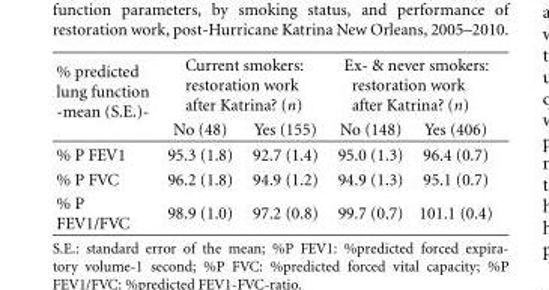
<table><thead><tr><td rowspan="2">% predicted lung function -mean (S.E.)-</td><td colspan="2">Current smokers: restoration work after Katrina? (n)</td><td colspan="2">Ex- &amp; never smokers: restoration work after Katrina? (n)</td></tr><tr><td>No (48)</td><td>Yes (155)</td><td>No (148)</td><td>Yes (406)</td></tr></thead><tbody><tr><td>% P FEV1</td><td>95.3 (1.8)</td><td>92.7 (1.4)</td><td>95.0 (1.3)</td><td>96.4 (0.7)</td></tr><tr><td>% P FVC</td><td>96.2 (1.8)</td><td>94.9 (1.2)</td><td>94.9 (1.3)</td><td>95.1 (0.7)</td></tr><tr><td>% P FEV1/FVC</td><td>98.9 (1.0)</td><td>97.2 (0.8)</td><td>99.7 (0.7)</td><td>101.1 (0.4)</td></tr></tbody></table>